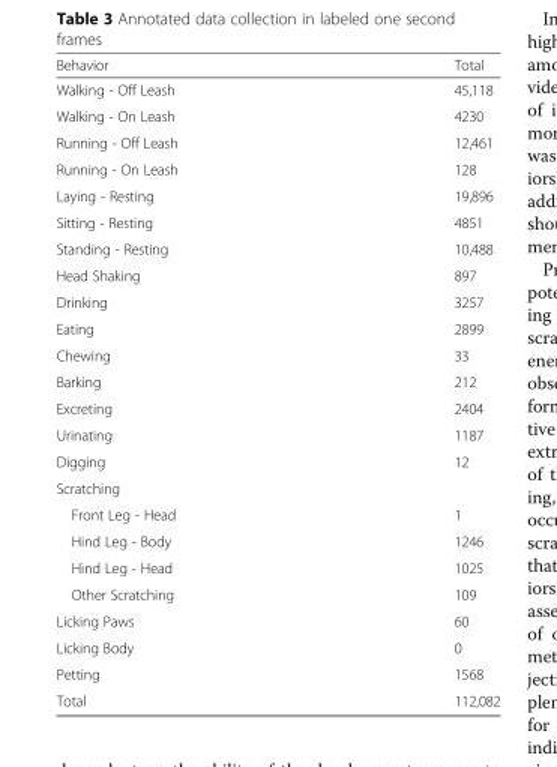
<table><thead><tr><td>Behavior</td><td>Total</td></tr></thead><tbody><tr><td>Walking - Off Leash</td><td>45,118</td></tr><tr><td>Walking - On Leash</td><td>4230</td></tr><tr><td>Running - Off Leash</td><td>12,461</td></tr><tr><td>Running - On Leash</td><td>128</td></tr><tr><td>Laying - Resting</td><td>19,896</td></tr><tr><td>Sitting - Resting</td><td>4851</td></tr><tr><td>Standing - Resting</td><td>10,488</td></tr><tr><td>Head Shaking</td><td>897</td></tr><tr><td>Drinking</td><td>3257</td></tr><tr><td>Eating</td><td>2899</td></tr><tr><td>Chewing</td><td>33</td></tr><tr><td>Barking</td><td>212</td></tr><tr><td>Excreting</td><td>2404</td></tr><tr><td>Urinating</td><td>1187</td></tr><tr><td>Digging</td><td>12</td></tr><tr><td colspan="2">Scratching</td></tr><tr><td>Front Leg - Head</td><td>1</td></tr><tr><td>Hind Leg - Body</td><td>1246</td></tr><tr><td>Hind Leg - Head</td><td>1025</td></tr><tr><td>Other Scratching</td><td>109</td></tr><tr><td>Licking Paws</td><td>60</td></tr><tr><td>Licking Body</td><td>0</td></tr><tr><td>Petting</td><td>1568</td></tr><tr><td>Total</td><td>112,082</td></tr></tbody></table>